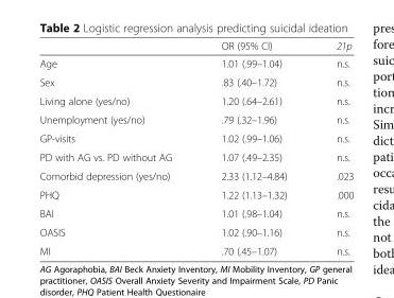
<table><thead><tr><td></td><td>OR (95% CI)</td><td>21p</td></tr></thead><tbody><tr><td>Age</td><td>1.01 (.99–1.04)</td><td>n.s.</td></tr><tr><td>Sex</td><td>.83 (.40–1.72)</td><td>n.s.</td></tr><tr><td>Living alone (yes/no)</td><td>1.20 (.64–2.61)</td><td>n.s.</td></tr><tr><td>Unemployment (yes/no)</td><td>.79 (.32–1.96)</td><td>n.s.</td></tr><tr><td>GP-visits</td><td>1.02 (.99–1.06)</td><td>n.s.</td></tr><tr><td>PD with AG vs. PD without AG</td><td>1.07 (.49–2.35)</td><td>n.s.</td></tr><tr><td>Comorbid depression (yes/no)</td><td>2.33 (1.12–4.84)</td><td>.023</td></tr><tr><td>PHQ</td><td>1.22 (1.13–1.32)</td><td>.000</td></tr><tr><td>BAI</td><td>1.01 (.98–1.04)</td><td>n.s.</td></tr><tr><td>OASIS</td><td>1.02 (.90–1.16)</td><td>n.s.</td></tr><tr><td>MI</td><td>.70 (.45–1.07)</td><td>n.s.</td></tr></tbody></table>